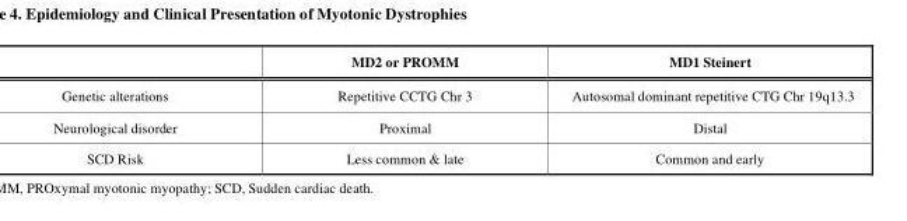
<table><thead><tr><td></td><td>MD2 or PROMM</td><td>MD1 Steinert</td></tr></thead><tbody><tr><td>Genetic alterations</td><td>Repetitive CCTG Chr 3</td><td>Autosomal dominant repetitive CTG Chr 19q13.3</td></tr><tr><td>Neurological disorder</td><td>Proximal</td><td>Distal</td></tr><tr><td>SCD Risk</td><td>Less common &amp; late</td><td>Common and early</td></tr></tbody></table>